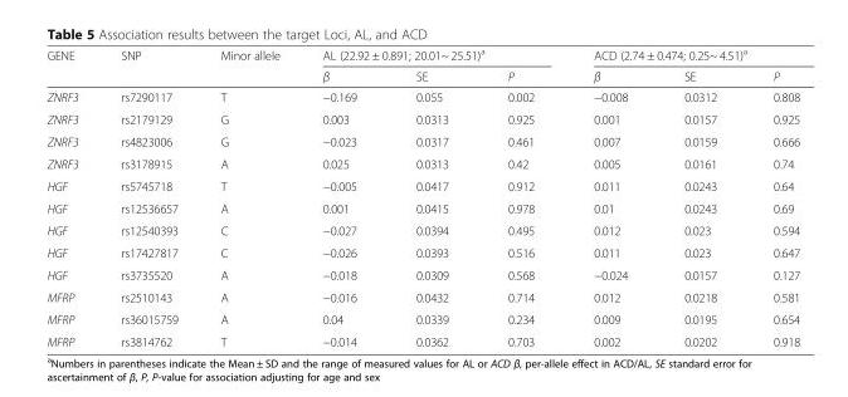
<table><thead><tr><td rowspan="2">GENE</td><td rowspan="2">SNP</td><td rowspan="2">Minor allele</td><td colspan="3">AL (22.92 ± 0.891; 20.01~ 25.51)<sup>a</sup></td><td colspan="3">ACD (2.74 ± 0.474; 0.25~ 4.51)<sup>a</sup></td></tr><tr><td>β</td><td>SE</td><td>P</td><td>β</td><td>SE</td><td>P</td></tr></thead><tbody><tr><td>ZNRF3</td><td>rs7290117</td><td>T</td><td>−0.169</td><td>0.055</td><td>0.002</td><td>−0.008</td><td>0.0312</td><td>0.808</td></tr><tr><td>ZNRF3</td><td>rs2179129</td><td>G</td><td>0.003</td><td>0.0313</td><td>0.925</td><td>0.001</td><td>0.0157</td><td>0.925</td></tr><tr><td>ZNRF3</td><td>rs4823006</td><td>G</td><td>−0.023</td><td>0.0317</td><td>0.461</td><td>0.007</td><td>0.0159</td><td>0.666</td></tr><tr><td>ZNRF3</td><td>rs3178915</td><td>A</td><td>0.025</td><td>0.0313</td><td>0.42</td><td>0.005</td><td>0.0161</td><td>0.74</td></tr><tr><td>HGF</td><td>rs5745718</td><td>T</td><td>−0.005</td><td>0.0417</td><td>0.912</td><td>0.011</td><td>0.0243</td><td>0.64</td></tr><tr><td>HGF</td><td>rs12536657</td><td>A</td><td>0.001</td><td>0.0415</td><td>0.978</td><td>0.01</td><td>0.0243</td><td>0.69</td></tr><tr><td>HGF</td><td>rs12540393</td><td>C</td><td>−0.027</td><td>0.0394</td><td>0.495</td><td>0.012</td><td>0.023</td><td>0.594</td></tr><tr><td>HGF</td><td>rs17427817</td><td>C</td><td>−0.026</td><td>0.0393</td><td>0.516</td><td>0.011</td><td>0.023</td><td>0.647</td></tr><tr><td>HGF</td><td>rs3735520</td><td>A</td><td>−0.018</td><td>0.0309</td><td>0.568</td><td>−0.024</td><td>0.0157</td><td>0.127</td></tr><tr><td>MFRP</td><td>rs2510143</td><td>A</td><td>−0.016</td><td>0.0432</td><td>0.714</td><td>0.012</td><td>0.0218</td><td>0.581</td></tr><tr><td>MFRP</td><td>rs36015759</td><td>A</td><td>0.04</td><td>0.0339</td><td>0.234</td><td>0.009</td><td>0.0195</td><td>0.654</td></tr><tr><td>MFRP</td><td>rs3814762</td><td>T</td><td>−0.014</td><td>0.0362</td><td>0.703</td><td>0.002</td><td>0.0202</td><td>0.918</td></tr></tbody></table>